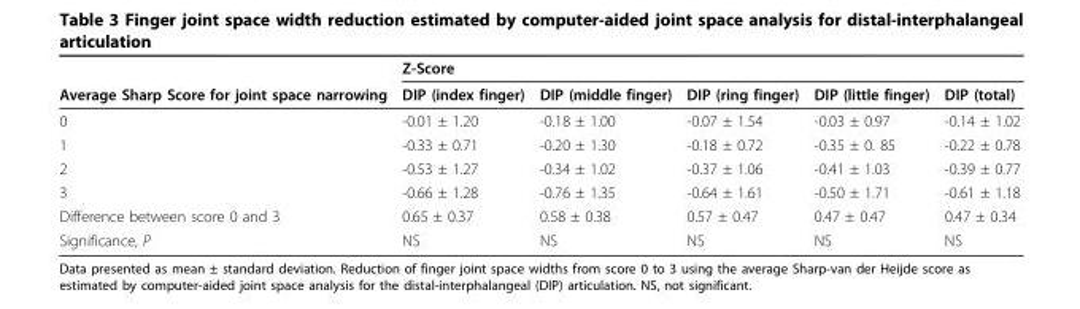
<table><thead><tr><td rowspan="2">Average Sharp Score for joint space narrowing</td><td colspan="5">Z-Score</td></tr><tr><td>DIP (index finger)</td><td>DIP (middle finger)</td><td>DIP (ring finger)</td><td>DIP (little finger)</td><td>DIP (total)</td></tr></thead><tbody><tr><td>0</td><td>-0.01 ± 1.20</td><td>-0.18 ± 1.00</td><td>-0.07 ± 1.54</td><td>-0.03 ± 0.97</td><td>-0.14 ± 1.02</td></tr><tr><td>1</td><td>-0.33 ± 0.71</td><td>-0.20 ± 1.30</td><td>-0.18 ± 0.72</td><td>-0.35 ± 0. 85</td><td>-0.22 ± 0.78</td></tr><tr><td>2</td><td>-0.53 ± 1.27</td><td>-0.34 ± 1.02</td><td>-0.37 ± 1.06</td><td>-0.41 ± 1.03</td><td>-0.39 ± 0.77</td></tr><tr><td>3</td><td>-0.66 ± 1.28</td><td>-0.76 ± 1.35</td><td>-0.64 ± 1.61</td><td>-0.50 ± 1.71</td><td>-0.61 ± 1.18</td></tr><tr><td>Difference between score 0 and 3</td><td>0.65 ± 0.37</td><td>0.58 ± 0.38</td><td>0.57 ± 0.47</td><td>0.47 ± 0.47</td><td>0.47 ± 0.34</td></tr><tr><td>Significance, P</td><td>NS</td><td>NS</td><td>NS</td><td>NS</td><td>NS</td></tr></tbody></table>